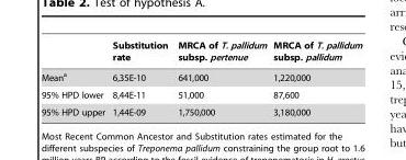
<table><thead><tr><td></td><td>Substitution rate</td><td>MRCA of T. pallidum subsp. pertenue</td><td>MRCA of T. pallidum subsp. pallidum</td></tr></thead><tbody><tr><td>Mean<sup>a</sup></td><td>6,35E-10</td><td>641,000</td><td>1,220,000</td></tr><tr><td>95% HPD lower</td><td>8,44E-11</td><td>51,000</td><td>87,600</td></tr><tr><td>95% HPD upper</td><td>1,44E-09</td><td>1,750,000</td><td>3,180,000</td></tr></tbody></table>